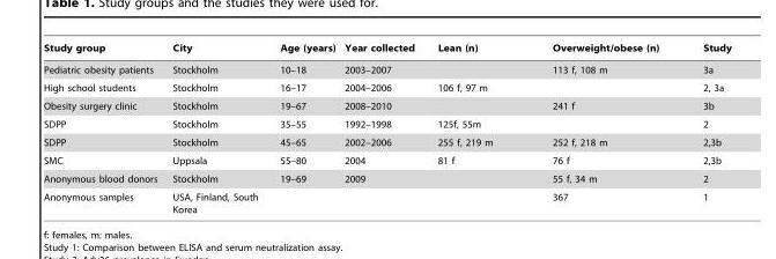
<table><thead><tr><td>Study group</td><td>City</td><td>Age (years)</td><td>Year collected</td><td>Lean (n)</td><td>Overweight/obese (n)</td><td>Study</td></tr></thead><tbody><tr><td>Pediatric obesity patients</td><td>Stockholm</td><td>10–18</td><td>2003–2007</td><td></td><td>113 f, 108 m</td><td>3a</td></tr><tr><td>High school students</td><td>Stockholm</td><td>16–17</td><td>2004–2006</td><td>106 f, 97 m</td><td></td><td>2, 3a</td></tr><tr><td>Obesity surgery clinic</td><td>Stockholm</td><td>19–67</td><td>2008–2010</td><td></td><td>241 f</td><td>3b</td></tr><tr><td>SDPP</td><td>Stockholm</td><td>35–55</td><td>1992–1998</td><td>125f, 55m</td><td></td><td>2</td></tr><tr><td>SDPP</td><td>Stockholm</td><td>45–65</td><td>2002–2006</td><td>255 f, 219 m</td><td>252 f, 218 m</td><td>2,3b</td></tr><tr><td>SMC</td><td>Uppsala</td><td>55–80</td><td>2004</td><td>81 f</td><td>76 f</td><td>2,3b</td></tr><tr><td>Anonymous blood donors</td><td>Stockholm</td><td>19–69</td><td>2009</td><td></td><td>55 f, 34 m</td><td>2</td></tr><tr><td>Anonymous samples</td><td>USA, Finland, South Korea</td><td></td><td></td><td></td><td>367</td><td>1</td></tr></tbody></table>